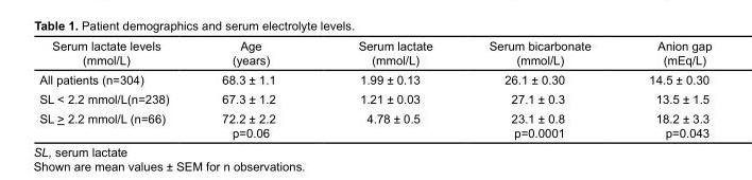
<table><thead><tr><td>Serum lactate levels (mmol/L)</td><td>Age (years)</td><td>Serum lactate (mmol/L)</td><td>Serum bicarbonate (mmol/L)</td><td>Anion gap (mEq/L)</td></tr></thead><tbody><tr><td>All patients (n=304)</td><td>68.3 ± 1.1</td><td>1.99 ± 0.13</td><td>26.1 ± 0.30</td><td>14.5 ± 0.30</td></tr><tr><td>SL &lt; 2.2 mmol/L(n=238)</td><td>67.3 ± 1.2</td><td>1.21 ± 0.03</td><td>27.1 ± 0.3</td><td>13.5 ± 1.5</td></tr><tr><td rowspan="2">SL &gt; 2.2 mmol/L (n=66)</td><td>72.2 ± 2.2</td><td>4.78 ± 0.5</td><td>23.1 ± 0.8</td><td>18.2 ± 3.3</td></tr><tr><td>p=0.06</td><td></td><td>p=0.0001</td><td>p=0.043</td></tr></tbody></table>